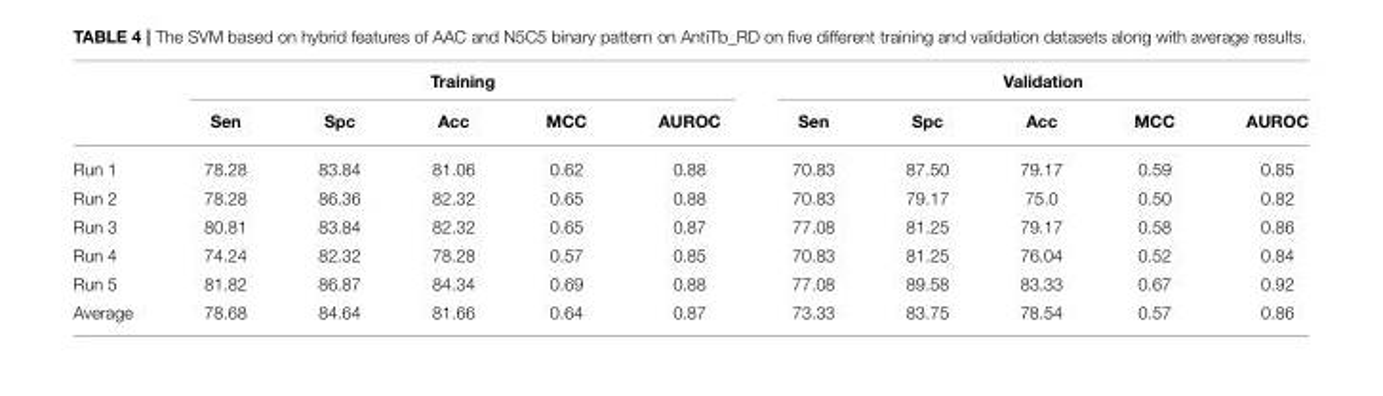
<table><thead><tr><td rowspan="2"></td><td colspan="5">Training</td><td colspan="5">Validation</td></tr><tr><td>Sen</td><td>Spc</td><td>Acc</td><td>MCC</td><td>AUROC</td><td>Sen</td><td>Spc</td><td>Acc</td><td>MCC</td><td>AUROC</td></tr></thead><tbody><tr><td>Run 1</td><td>78.28</td><td>83.84</td><td>81.06</td><td>0.62</td><td>0.88</td><td>70.83</td><td>87.50</td><td>79.17</td><td>0.59</td><td>0.85</td></tr><tr><td>Run 2</td><td>78.28</td><td>86.36</td><td>82.32</td><td>0.65</td><td>0.88</td><td>70.83</td><td>79.17</td><td>75.0</td><td>0.50</td><td>0.82</td></tr><tr><td>Run 3</td><td>80.81</td><td>83.84</td><td>82.32</td><td>0.65</td><td>0.87</td><td>77.08</td><td>81.25</td><td>79.17</td><td>0.58</td><td>0.86</td></tr><tr><td>Run 4</td><td>74.24</td><td>82.32</td><td>78.28</td><td>0.57</td><td>0.85</td><td>70.83</td><td>81.25</td><td>76.04</td><td>0.52</td><td>0.84</td></tr><tr><td>Run 5</td><td>81.82</td><td>86.87</td><td>84.34</td><td>0.69</td><td>0.88</td><td>77.08</td><td>89.58</td><td>83.33</td><td>0.67</td><td>0.92</td></tr><tr><td>Average</td><td>78.68</td><td>84.64</td><td>81.66</td><td>0.64</td><td>0.87</td><td>73.33</td><td>83.75</td><td>78.54</td><td>0.57</td><td>0.86</td></tr></tbody></table>